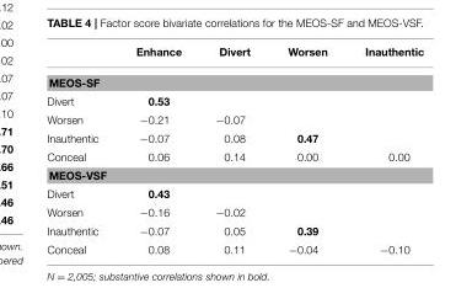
<table><thead><tr><td></td><td>Enhance</td><td>Divert</td><td>Worsen</td><td>Inauthentic</td></tr></thead><tbody><tr><td colspan="5">MEOS-SF</td></tr><tr><td>Divert</td><td>0.53</td><td></td><td></td><td></td></tr><tr><td>Worsen</td><td>−0.21</td><td>−0.07</td><td></td><td></td></tr><tr><td>Inauthentic</td><td>−0.07</td><td>0.08</td><td>0.47</td><td></td></tr><tr><td>Conceal</td><td>0.06</td><td>0.14</td><td>0.00</td><td>0.00</td></tr><tr><td colspan="5">MEOS-VSF</td></tr><tr><td>Divert</td><td>0.43</td><td></td><td></td><td></td></tr><tr><td>Worsen</td><td>−0.16</td><td>−0.02</td><td></td><td></td></tr><tr><td>Inauthentic</td><td>−0.07</td><td>0.05</td><td>0.39</td><td></td></tr><tr><td>Conceal</td><td>0.08</td><td>0.11</td><td>−0.04</td><td>−0.10</td></tr></tbody></table>